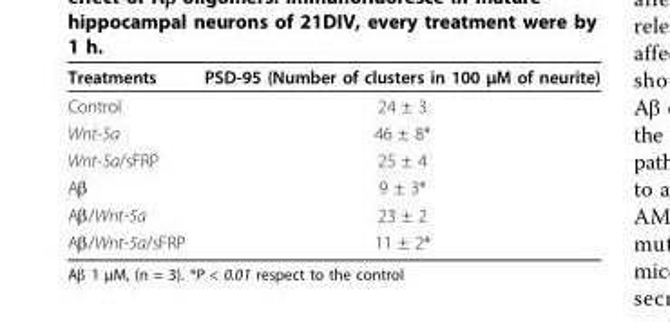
<table><thead><tr><td>Treatments</td><td>PSD-95 (Number of clusters in 100 μM of neurite)</td></tr></thead><tbody><tr><td>Control</td><td>24 ± 3</td></tr><tr><td>Wnt-5a</td><td>46 ± 8*</td></tr><tr><td>Wnt-5a/sFRP</td><td>25 ± 4</td></tr><tr><td>Aβ</td><td>9 ± 3*</td></tr><tr><td>Aβ/Wnt-5a</td><td>23 ± 2</td></tr><tr><td>Aβ/Wnt-5a/sFRP</td><td>11 ± 2*</td></tr></tbody></table>